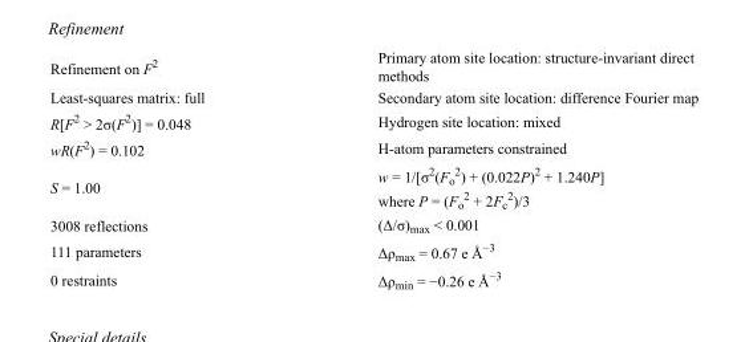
<table><tbody><tr><td>Refinement on F<sup>2</sup></td><td>Primary atom site location: structure-invariant direct methods</td></tr><tr><td>Least-squares matrix: full</td><td>Secondary atom site location: difference Fourier map</td></tr><tr><td>R[F<sup>2</sup> &gt; 2σ(F<sup>2</sup>)] = 0.048</td><td>Hydrogen site location: mixed</td></tr><tr><td>wR(F<sup>2</sup>) = 0.102</td><td>H-atom parameters constrained</td></tr><tr><td>S = 1.00</td><td>w = 1/[σ<sup>2</sup>(F<sub>o</sub> <sup>2</sup>) + (0.022P)<sup>2</sup> + 1.240P] where P = (F<sub>o</sub> <sup>2</sup> + 2F<sub>c</sub> <sup>2</sup>)/3</td></tr><tr><td>3008 reflections</td><td>(Δ/σ)<sub>max</sub> &lt; 0.001</td></tr><tr><td>111 parameters</td><td>Δρ<sub>max</sub> = 0.67 e Å<sup>−3</sup></td></tr><tr><td>0 restraints</td><td>Δρ<sub>min</sub> = −0.26 e Å<sup>−3</sup></td></tr></tbody></table>